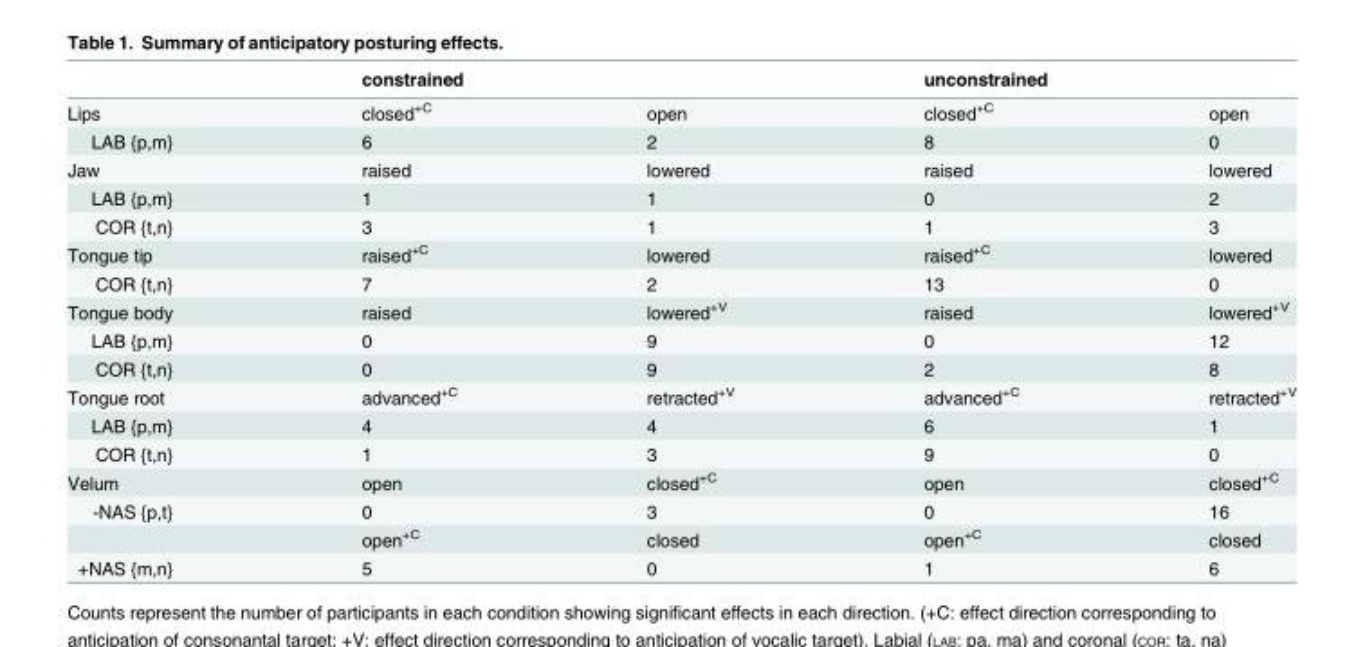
<table><thead><tr><td rowspan="2">Lips</td><td colspan="2">constrained</td><td colspan="2">unconstrained</td></tr><tr><td>closed<sup>+C</sup></td><td>open</td><td>closed<sup>+C</sup></td><td>open</td></tr></thead><tbody><tr><td>LAB {p,m}</td><td>6</td><td>2</td><td>8</td><td>0</td></tr><tr><td>Jaw</td><td>raised</td><td>lowered</td><td>raised</td><td>lowered</td></tr><tr><td>LAB {p,m}</td><td>1</td><td>1</td><td>0</td><td>2</td></tr><tr><td>COR {t,n}</td><td>3</td><td>1</td><td>1</td><td>3</td></tr><tr><td>Tongue tip</td><td>raised<sup>+C</sup></td><td>lowered</td><td>raised<sup>+C</sup></td><td>lowered</td></tr><tr><td>COR {t,n}</td><td>7</td><td>2</td><td>13</td><td>0</td></tr><tr><td>Tongue body</td><td>raised</td><td>lowered<sup>+V</sup></td><td>raised</td><td>lowered<sup>+V</sup></td></tr><tr><td>LAB {p,m}</td><td>0</td><td>9</td><td>0</td><td>12</td></tr><tr><td>COR {t,n}</td><td>0</td><td>9</td><td>2</td><td>8</td></tr><tr><td>Tongue root</td><td>advanced<sup>+C</sup></td><td>retracted<sup>+V</sup></td><td>advanced<sup>+C</sup></td><td>retracted<sup>+V</sup></td></tr><tr><td>LAB {p,m}</td><td>4</td><td>4</td><td>6</td><td>1</td></tr><tr><td>COR {t,n}</td><td>1</td><td>3</td><td>9</td><td>0</td></tr><tr><td>Velum</td><td>open</td><td>closed<sup>+C</sup></td><td>open</td><td>closed<sup>+C</sup></td></tr><tr><td rowspan="2">-NAS {p,t}</td><td>0</td><td>3</td><td>0</td><td>16</td></tr><tr><td>open<sup>+C</sup></td><td>closed</td><td>open<sup>+C</sup></td><td>closed</td></tr><tr><td>+NAS {m,n}</td><td>5</td><td>0</td><td>1</td><td>6</td></tr></tbody></table>